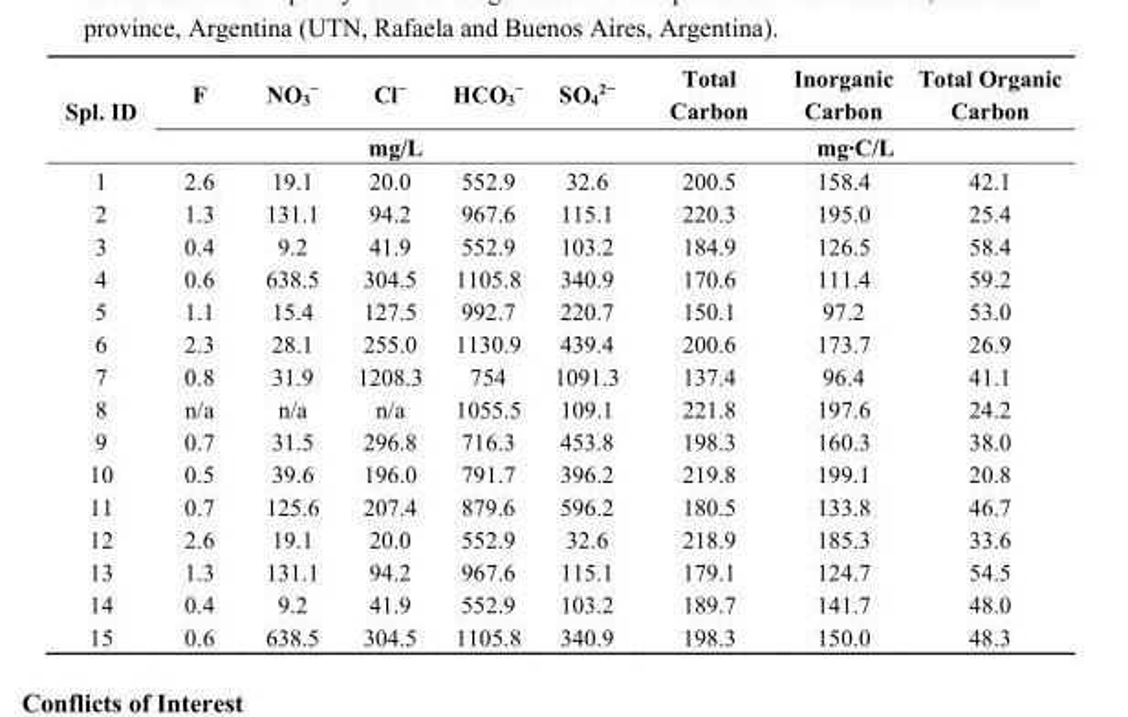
<table><thead><tr><td rowspan="2">Spl. ID</td><td>F</td><td>NO<sub>3</sub><sup>−</sup></td><td>Cl<sup>−</sup></td><td>HCO<sub>3</sub><sup>−</sup></td><td>SO<sub>4</sub><sup>2−</sup></td><td>Total Carbon</td><td>Inorganic Carbon</td><td>Total Organic Carbon</td></tr><tr><td colspan="5">mg/L</td><td colspan="3">mg·C/L</td></tr></thead><tbody><tr><td>1</td><td>2.6</td><td>19.1</td><td>20.0</td><td>552.9</td><td>32.6</td><td>200.5</td><td>158.4</td><td>42.1</td></tr><tr><td>2</td><td>1.3</td><td>131.1</td><td>94.2</td><td>967.6</td><td>115.1</td><td>220.3</td><td>195.0</td><td>25.4</td></tr><tr><td>3</td><td>0.4</td><td>9.2</td><td>41.9</td><td>552.9</td><td>103.2</td><td>184.9</td><td>126.5</td><td>58.4</td></tr><tr><td>4</td><td>0.6</td><td>638.5</td><td>304.5</td><td>1105.8</td><td>340.9</td><td>170.6</td><td>111.4</td><td>59.2</td></tr><tr><td>5</td><td>1.1</td><td>15.4</td><td>127.5</td><td>992.7</td><td>220.7</td><td>150.1</td><td>97.2</td><td>53.0</td></tr><tr><td>6</td><td>2.3</td><td>28.1</td><td>255.0</td><td>1130.9</td><td>439.4</td><td>200.6</td><td>173.7</td><td>26.9</td></tr><tr><td>7</td><td>0.8</td><td>31.9</td><td>1208.3</td><td>754</td><td>1091.3</td><td>137.4</td><td>96.4</td><td>41.1</td></tr><tr><td>8</td><td>n/a</td><td>n/a</td><td>n/a</td><td>1055.5</td><td>109.1</td><td>221.8</td><td>197.6</td><td>24.2</td></tr><tr><td>9</td><td>0.7</td><td>31.5</td><td>296.8</td><td>716.3</td><td>453.8</td><td>198.3</td><td>160.3</td><td>38.0</td></tr><tr><td>10</td><td>0.5</td><td>39.6</td><td>196.0</td><td>791.7</td><td>396.2</td><td>219.8</td><td>199.1</td><td>20.8</td></tr><tr><td>11</td><td>0.7</td><td>125.6</td><td>207.4</td><td>879.6</td><td>596.2</td><td>180.5</td><td>133.8</td><td>46.7</td></tr><tr><td>12</td><td>2.6</td><td>19.1</td><td>20.0</td><td>552.9</td><td>32.6</td><td>218.9</td><td>185.3</td><td>33.6</td></tr><tr><td>13</td><td>1.3</td><td>131.1</td><td>94.2</td><td>967.6</td><td>115.1</td><td>179.1</td><td>124.7</td><td>54.5</td></tr><tr><td>14</td><td>0.4</td><td>9.2</td><td>41.9</td><td>552.9</td><td>103.2</td><td>189.7</td><td>141.7</td><td>48.0</td></tr><tr><td>15</td><td>0.6</td><td>638.5</td><td>304.5</td><td>1105.8</td><td>340.9</td><td>198.3</td><td>150.0</td><td>48.3</td></tr></tbody></table>